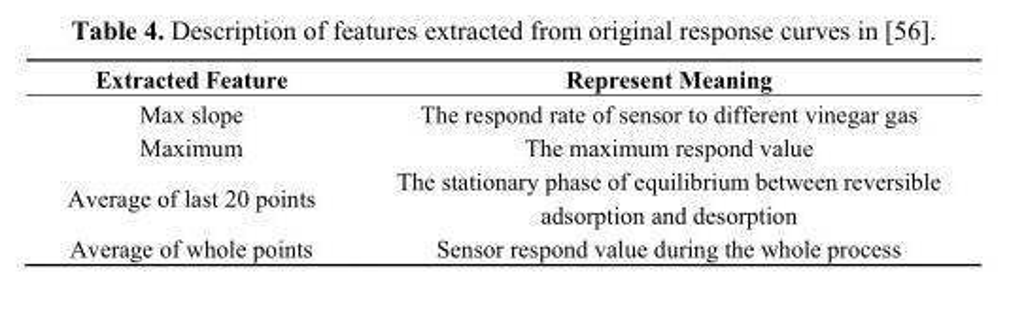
<table><thead><tr><td>Extracted Feature</td><td>Represent Meaning</td></tr></thead><tbody><tr><td>Max slope</td><td>The respond rate of sensor to different vinegar gas</td></tr><tr><td>Maximum</td><td>The maximum respond value</td></tr><tr><td>Average of last 20 points</td><td>The stationary phase of equilibrium between reversible adsorption and desorption</td></tr><tr><td>Average of whole points</td><td>Sensor respond value during the whole process</td></tr></tbody></table>